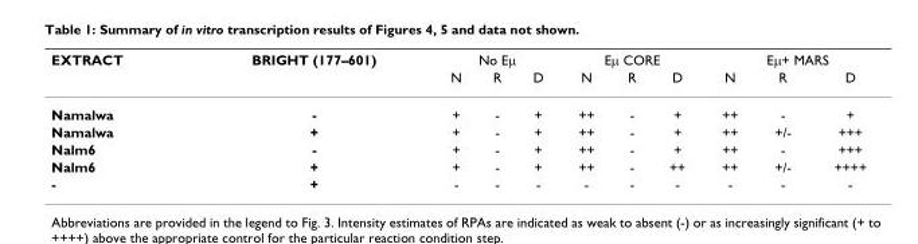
<table><thead><tr><td rowspan="2">EXTRACT</td><td rowspan="2">BRIGHT (177–601)</td><td colspan="3">No Eμ</td><td colspan="3">Eμ CORE</td><td colspan="3">Eμ+ MARS</td></tr><tr><td>N</td><td>R</td><td>D</td><td>N</td><td>R</td><td>D</td><td>N</td><td>R</td><td>D</td></tr></thead><tbody><tr><td>Namalwa</td><td>-</td><td>+</td><td>-</td><td>+</td><td>++</td><td>-</td><td>+</td><td>++</td><td>-</td><td>+</td></tr><tr><td>Namalwa</td><td>+</td><td>+</td><td>-</td><td>+</td><td>++</td><td>-</td><td>+</td><td>++</td><td>+/-</td><td>+++</td></tr><tr><td>Nalm6</td><td>-</td><td>+</td><td>-</td><td>+</td><td>++</td><td>-</td><td>+</td><td>++</td><td>-</td><td>+++</td></tr><tr><td>Nalm6</td><td>+</td><td>+</td><td>-</td><td>+</td><td>++</td><td>-</td><td>++</td><td>++</td><td>+/-</td><td>++++</td></tr><tr><td>-</td><td>+</td><td>-</td><td>-</td><td>-</td><td>-</td><td>-</td><td>-</td><td>-</td><td>-</td><td>-</td></tr></tbody></table>